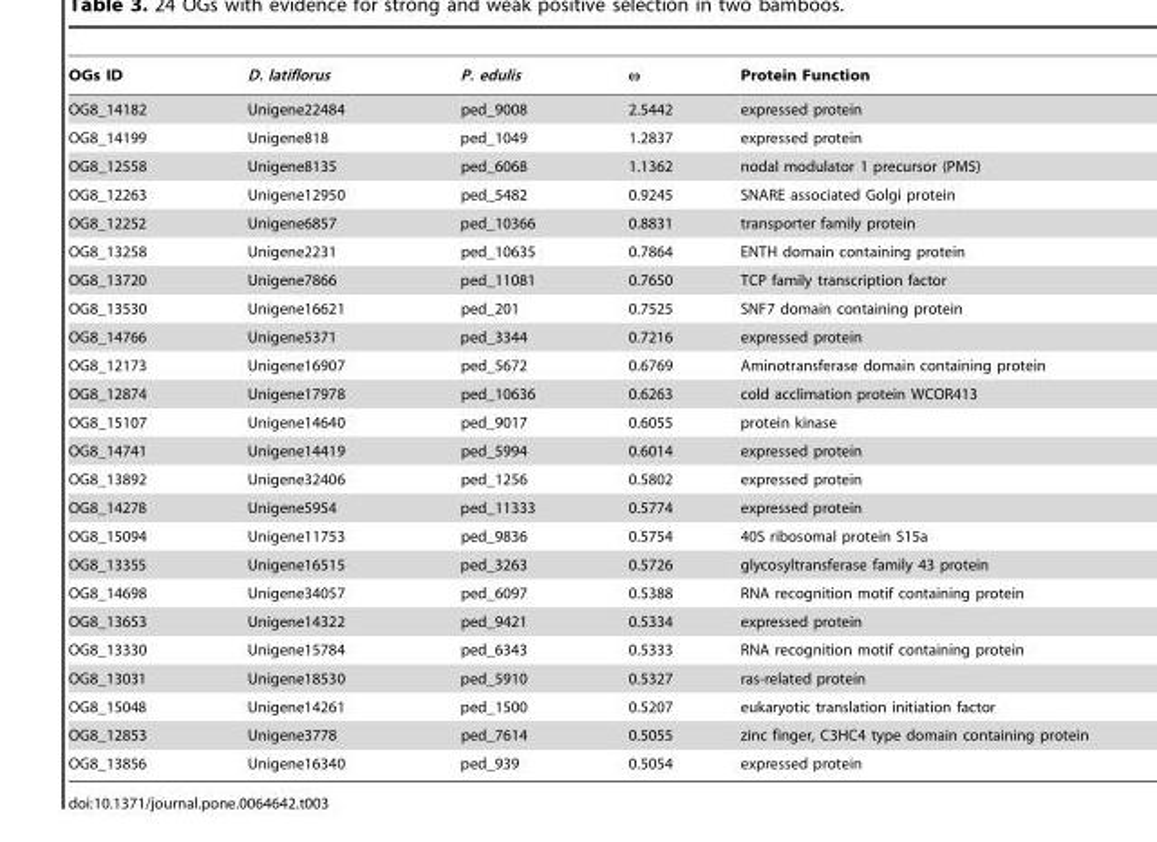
<table><thead><tr><td>OGs ID</td><td>D. latiflorus</td><td>P. edulis</td><td>ω</td><td>Protein Function</td></tr></thead><tbody><tr><td>OG8_14182</td><td>Unigene22484</td><td>ped_9008</td><td>2.5442</td><td>expressed protein</td></tr><tr><td>OG8_14199</td><td>Unigene818</td><td>ped_1049</td><td>1.2837</td><td>expressed protein</td></tr><tr><td>OG8_12558</td><td>Unigene8135</td><td>ped_6068</td><td>1.1362</td><td>nodal modulator 1 precursor (PM5)</td></tr><tr><td>OG8_12263</td><td>Unigene12950</td><td>ped_5482</td><td>0.9245</td><td>SNARE associated Golgi protein</td></tr><tr><td>OG8_12252</td><td>Unigene6857</td><td>ped_10366</td><td>0.8831</td><td>transporter family protein</td></tr><tr><td>OG8_13258</td><td>Unigene2231</td><td>ped_10635</td><td>0.7864</td><td>ENTH domain containing protein</td></tr><tr><td>OG8_13720</td><td>Unigene7866</td><td>ped_11081</td><td>0.7650</td><td>TCP family transcription factor</td></tr><tr><td>OG8_13530</td><td>Unigene16621</td><td>ped_201</td><td>0.7525</td><td>SNF7 domain containing protein</td></tr><tr><td>OG8_14766</td><td>Unigene5371</td><td>ped_3344</td><td>0.7216</td><td>expressed protein</td></tr><tr><td>OG8_12173</td><td>Unigene16907</td><td>ped_5672</td><td>0.6769</td><td>Aminotransferase domain containing protein</td></tr><tr><td>OG8_12874</td><td>Unigene17978</td><td>ped_10636</td><td>0.6263</td><td>cold acclimation protein WCOR413</td></tr><tr><td>OG8_15107</td><td>Unigene14640</td><td>ped_9017</td><td>0.6055</td><td>protein kinase</td></tr><tr><td>OG8_14741</td><td>Unigene14419</td><td>ped_5994</td><td>0.6014</td><td>expressed protein</td></tr><tr><td>OG8_13892</td><td>Unigene32406</td><td>ped_1256</td><td>0.5802</td><td>expressed protein</td></tr><tr><td>OG8_14278</td><td>Unigene5954</td><td>ped_11333</td><td>0.5774</td><td>expressed protein</td></tr><tr><td>OG8_15094</td><td>Unigene11753</td><td>ped_9836</td><td>0.5754</td><td>40S ribosomal protein S15a</td></tr><tr><td>OG8_13355</td><td>Unigene16515</td><td>ped_3263</td><td>0.5726</td><td>glycosyltransferase family 43 protein</td></tr><tr><td>OG8_14698</td><td>Unigene34057</td><td>ped_6097</td><td>0.5388</td><td>RNA recognition motif containing protein</td></tr><tr><td>OG8_13653</td><td>Unigene14322</td><td>ped_9421</td><td>0.5334</td><td>expressed protein</td></tr><tr><td>OG8_13330</td><td>Unigene15784</td><td>ped_6343</td><td>0.5333</td><td>RNA recognition motif containing protein</td></tr><tr><td>OG8_13031</td><td>Unigene18530</td><td>ped_5910</td><td>0.5327</td><td>ras-related protein</td></tr><tr><td>OG8_15048</td><td>Unigene14261</td><td>ped_1500</td><td>0.5207</td><td>eukaryotic translation initiation factor</td></tr><tr><td>OG8_12853</td><td>Unigene3778</td><td>ped_7614</td><td>0.5055</td><td>zinc finger, C3HC4 type domain containing protein</td></tr><tr><td>OG8_13856</td><td>Unigene16340</td><td>ped_939</td><td>0.5054</td><td>expressed protein</td></tr></tbody></table>